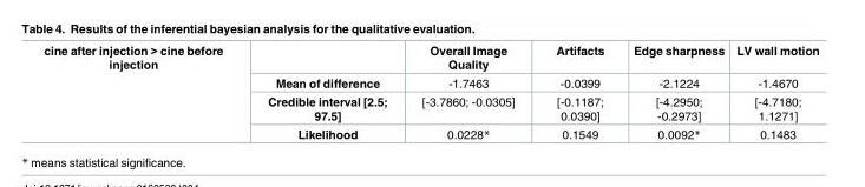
<table><tbody><tr><td rowspan="4">cine after injection &gt; cine before injection</td><td></td><td>Overall Image Quality</td><td>Artifacts</td><td>Edge sharpness</td><td>LV wall motion</td></tr><tr><td>Mean of difference</td><td>-1.7463</td><td>-0.0399</td><td>-2.1224</td><td>-1.4670</td></tr><tr><td>Credible interval [2.5; 97.5]</td><td>[-3.7860; -0.0305]</td><td>[-0.1187; 0.0390]</td><td>[-4.2950; -0.2973]</td><td>[-4.7180; 1.1271]</td></tr><tr><td>Likelihood</td><td>0.0228*</td><td>0.1549</td><td>0.0092*</td><td>0.1483</td></tr></tbody></table>